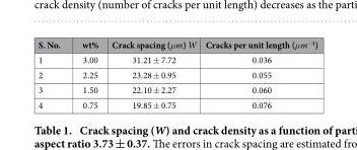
<table><thead><tr><td>S. No.</td><td>wt%</td><td>Crack spacing (μm) W</td><td>Cracks per unit length (μm<sup>−1</sup>)</td></tr></thead><tbody><tr><td>1</td><td>3.00</td><td>31.21 ± 7.72</td><td>0.036</td></tr><tr><td>2</td><td>2.25</td><td>23.28 ± 0.95</td><td>0.055</td></tr><tr><td>3</td><td>1.50</td><td>22.10 ± 2.27</td><td>0.060</td></tr><tr><td>4</td><td>0.75</td><td>19.85 ± 0.75</td><td>0.076</td></tr></tbody></table>